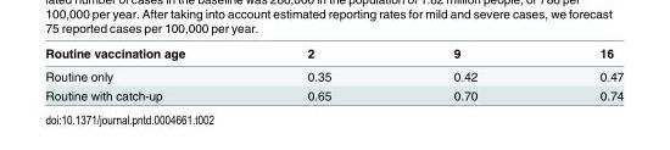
<table><thead><tr><td>Routine vaccination age</td><td>2</td><td>9</td><td>16</td></tr></thead><tbody><tr><td>Routine only</td><td>0.35</td><td>0.42</td><td>0.47</td></tr><tr><td>Routine with catch-up</td><td>0.65</td><td>0.70</td><td>0.74</td></tr></tbody></table>